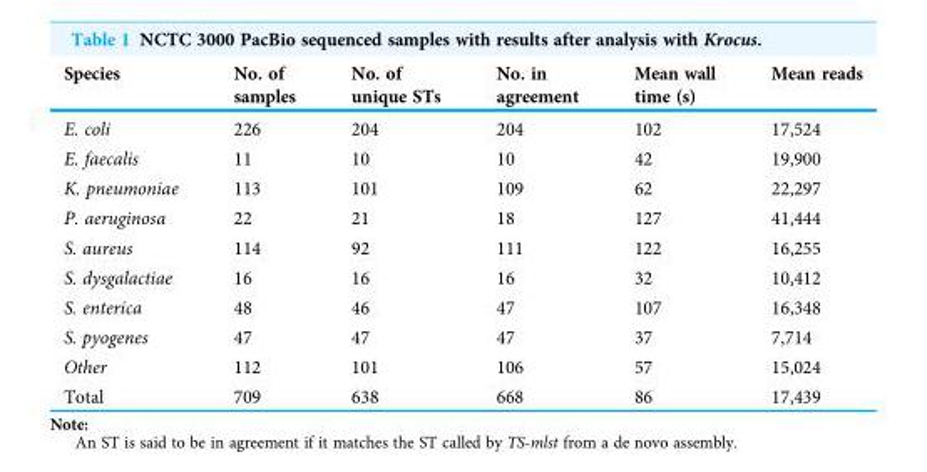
<table><thead><tr><td>Species</td><td>No. of samples</td><td>No. of unique STs</td><td>No. in agreement</td><td>Mean wall time (s)</td><td>Mean reads</td></tr></thead><tbody><tr><td>E. coli</td><td>226</td><td>204</td><td>204</td><td>102</td><td>17,524</td></tr><tr><td>E. faecalis</td><td>11</td><td>10</td><td>10</td><td>42</td><td>19,900</td></tr><tr><td>K. pneumoniae</td><td>113</td><td>101</td><td>109</td><td>62</td><td>22,297</td></tr><tr><td>P. aeruginosa</td><td>22</td><td>21</td><td>18</td><td>127</td><td>41,444</td></tr><tr><td>S. aureus</td><td>114</td><td>92</td><td>111</td><td>122</td><td>16,255</td></tr><tr><td>S. dysgalactiae</td><td>16</td><td>16</td><td>16</td><td>32</td><td>10,412</td></tr><tr><td>S. enterica</td><td>48</td><td>46</td><td>47</td><td>107</td><td>16,348</td></tr><tr><td>S. pyogenes</td><td>47</td><td>47</td><td>47</td><td>37</td><td>7,714</td></tr><tr><td>Other</td><td>112</td><td>101</td><td>106</td><td>57</td><td>15,024</td></tr><tr><td>Total</td><td>709</td><td>638</td><td>668</td><td>86</td><td>17,439</td></tr></tbody></table>